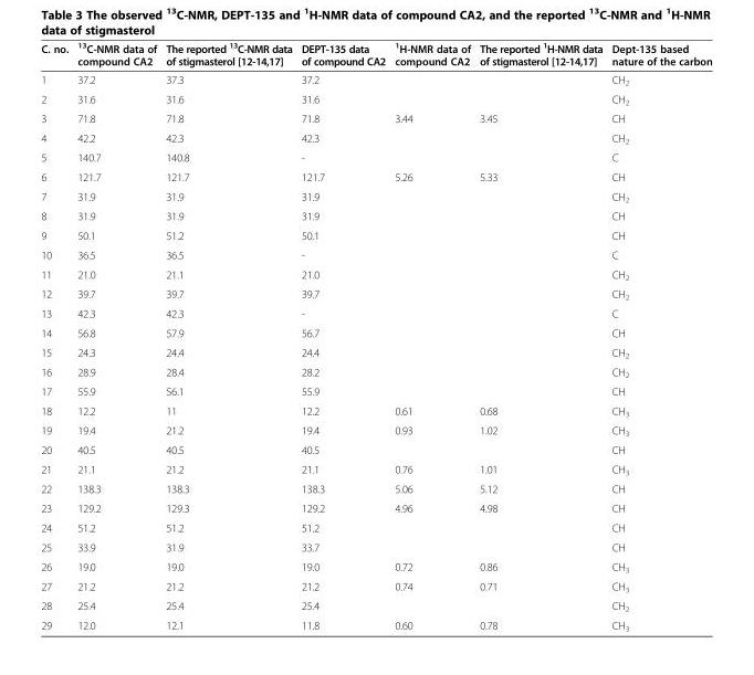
<table><thead><tr><td>C. no.</td><td><sup>13</sup>C-NMR data of compound CA2</td><td>The reported <sup>13</sup>C-NMR data of stigmasterol [12-14,17]</td><td>DEPT-135 data of compound CA2</td><td><sup>1</sup>H-NMR data of compound CA2</td><td>The reported <sup>1</sup>H-NMR data of stigmasterol [12-14,17]</td><td>Dept-135 based nature of the carbon</td></tr></thead><tbody><tr><td>1</td><td>37.2</td><td>37.3</td><td>37.2</td><td></td><td></td><td>CH<sub>2</sub></td></tr><tr><td>2</td><td>31.6</td><td>31.6</td><td>31.6</td><td></td><td></td><td>CH<sub>2</sub></td></tr><tr><td>3</td><td>71.8</td><td>71.8</td><td>71.8</td><td>3.44</td><td>3.45</td><td>CH</td></tr><tr><td>4</td><td>42.2</td><td>42.3</td><td>42.3</td><td></td><td></td><td>CH<sub>2</sub></td></tr><tr><td>5</td><td>140.7</td><td>140.8</td><td>-</td><td></td><td></td><td>C</td></tr><tr><td>6</td><td>121.7</td><td>121.7</td><td>121.7</td><td>5.26</td><td>5.33</td><td>CH</td></tr><tr><td>7</td><td>31.9</td><td>31.9</td><td>31.9</td><td></td><td></td><td>CH<sub>2</sub></td></tr><tr><td>8</td><td>31.9</td><td>31.9</td><td>31.9</td><td></td><td></td><td>CH</td></tr><tr><td>9</td><td>50.1</td><td>51.2</td><td>50.1</td><td></td><td></td><td>CH</td></tr><tr><td>10</td><td>36.5</td><td>36.5</td><td>-</td><td></td><td></td><td>C</td></tr><tr><td>11</td><td>21.0</td><td>21.1</td><td>21.0</td><td></td><td></td><td>CH<sub>2</sub></td></tr><tr><td>12</td><td>39.7</td><td>39.7</td><td>39.7</td><td></td><td></td><td>CH<sub>2</sub></td></tr><tr><td>13</td><td>42.3</td><td>42.3</td><td>-</td><td></td><td></td><td>C</td></tr><tr><td>14</td><td>56.8</td><td>57.9</td><td>56.7</td><td></td><td></td><td>CH</td></tr><tr><td>15</td><td>24.3</td><td>24.4</td><td>24.4</td><td></td><td></td><td>CH<sub>2</sub></td></tr><tr><td>16</td><td>28.9</td><td>28.4</td><td>28.2</td><td></td><td></td><td>CH<sub>2</sub></td></tr><tr><td>17</td><td>55.9</td><td>56.1</td><td>55.9</td><td></td><td></td><td>CH</td></tr><tr><td>18</td><td>12.2</td><td>11</td><td>12.2</td><td>0.61</td><td>0.68</td><td>CH<sub>3</sub></td></tr><tr><td>19</td><td>19.4</td><td>21.2</td><td>19.4</td><td>0.93</td><td>1.02</td><td>CH<sub>3</sub></td></tr><tr><td>20</td><td>40.5</td><td>40.5</td><td>40.5</td><td></td><td></td><td>CH</td></tr><tr><td>21</td><td>21.1</td><td>21.2</td><td>21.1</td><td>0.76</td><td>1.01</td><td>CH<sub>3</sub></td></tr><tr><td>22</td><td>138.3</td><td>138.3</td><td>138.3</td><td>5.06</td><td>5.12</td><td>CH</td></tr><tr><td>23</td><td>129.2</td><td>129.3</td><td>129.2</td><td>4.96</td><td>4.98</td><td>CH</td></tr><tr><td>24</td><td>51.2</td><td>51.2</td><td>51.2</td><td></td><td></td><td>CH</td></tr><tr><td>25</td><td>33.9</td><td>31.9</td><td>33.7</td><td></td><td></td><td>CH</td></tr><tr><td>26</td><td>19.0</td><td>19.0</td><td>19.0</td><td>0.72</td><td>0.86</td><td>CH<sub>3</sub></td></tr><tr><td>27</td><td>21.2</td><td>21.2</td><td>21.2</td><td>0.74</td><td>0.71</td><td>CH<sub>3</sub></td></tr><tr><td>28</td><td>25.4</td><td>25.4</td><td>25.4</td><td></td><td></td><td>CH<sub>2</sub></td></tr><tr><td>29</td><td>12.0</td><td>12.1</td><td>11.8</td><td>0.60</td><td>0.78</td><td>CH<sub>3</sub></td></tr></tbody></table>